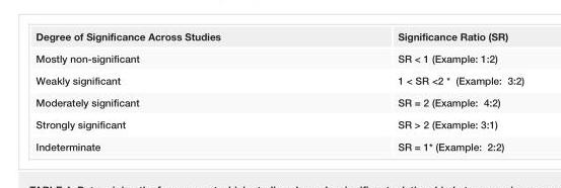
<table><tbody><tr><td>Degree of Significance Across Studies</td><td>Significance Ratio (SR)</td></tr><tr><td>Mostly non-significant</td><td>SR &lt; 1 (Example: 1:2)</td></tr><tr><td>Weakly significant</td><td>1 &lt; SR &lt;2 * (Example: 3:2)</td></tr><tr><td>Moderately significant</td><td>SR = 2 (Example: 4:2)</td></tr><tr><td>Strongly significant</td><td>SR &gt; 2 (Example: 3:1)</td></tr><tr><td>Indeterminate</td><td>SR = 1* (Example: 2:2)</td></tr></tbody></table>